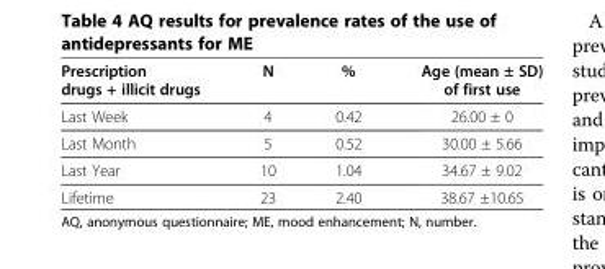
<table><thead><tr><td>Prescription drugs + illicit drugs</td><td>N</td><td>%</td><td>Age (mean ± SD) of first use</td></tr></thead><tbody><tr><td>Last Week</td><td>4</td><td>0.42</td><td>26.00 ± 0</td></tr><tr><td>Last Month</td><td>5</td><td>0.52</td><td>30.00 ± 5.66</td></tr><tr><td>Last Year</td><td>10</td><td>1.04</td><td>34.67 ± 9.02</td></tr><tr><td>Lifetime</td><td>23</td><td>2.40</td><td>38.67 ±10.65</td></tr></tbody></table>